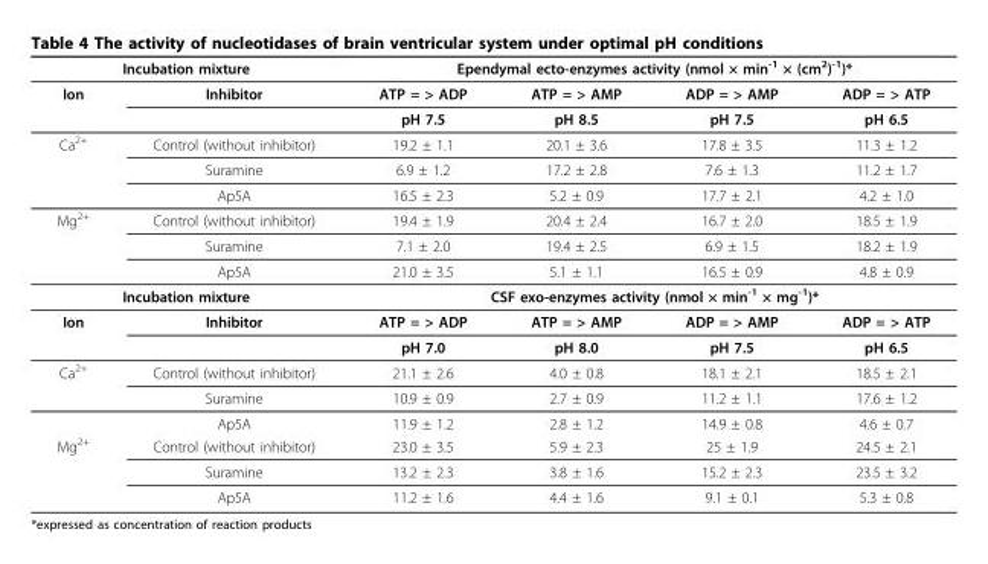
<table><thead><tr><td colspan="2">Incubation mixture</td><td colspan="4">Ependymal ecto-enzymes activity (nmol × min<sup>-1</sup> × (cm<sup>2</sup>)<sup>-1</sup>)*</td></tr><tr><td>Ion</td><td>Inhibitor</td><td>ATP = &gt; ADP</td><td>ATP = &gt; AMP</td><td>ADP = &gt; AMP</td><td>ADP = &gt; ATP</td></tr></thead><tbody><tr><td></td><td></td><td>pH 7.5</td><td>pH 8.5</td><td>pH 7.5</td><td>pH 6.5</td></tr><tr><td rowspan="3">Ca<sup>2+</sup></td><td>Control (without inhibitor)</td><td>19.2 ± 1.1</td><td>20.1 ± 3.6</td><td>17.8 ± 3.5</td><td>11.3 ± 1.2</td></tr><tr><td>Suramine</td><td>6.9 ± 1.2</td><td>17.2 ± 2.8</td><td>7.6 ± 1.3</td><td>11.2 ± 1.7</td></tr><tr><td>Ap5A</td><td>16.5 ± 2.3</td><td>5.2 ± 0.9</td><td>17.7 ± 2.1</td><td>4.2 ± 1.0</td></tr><tr><td rowspan="3">Mg<sup>2+</sup></td><td>Control (without inhibitor)</td><td>19.4 ± 1.9</td><td>20.4 ± 2.4</td><td>16.7 ± 2.0</td><td>18.5 ± 1.9</td></tr><tr><td>Suramine</td><td>7.1 ± 2.0</td><td>19.4 ± 2.5</td><td>6.9 ± 1.5</td><td>18.2 ± 1.9</td></tr><tr><td>Ap5A</td><td>21.0 ± 3.5</td><td>5.1 ± 1.1</td><td>16.5 ± 0.9</td><td>4.8 ± 0.9</td></tr><tr><td colspan="2">Incubation mixture</td><td colspan="4">CSF exo-enzymes activity (nmol × min<sup>-1</sup> × mg<sup>-1</sup>)*</td></tr><tr><td rowspan="2">Ion</td><td>Inhibitor</td><td>ATP = &gt; ADP</td><td>ATP = &gt; AMP</td><td>ADP = &gt; AMP</td><td>ADP = &gt; ATP</td></tr><tr><td></td><td>pH 7.0</td><td>pH 8.0</td><td>pH 7.5</td><td>pH 6.5</td></tr><tr><td rowspan="3">Ca<sup>2+</sup></td><td>Control (without inhibitor)</td><td>21.1 ± 2.6</td><td>4.0 ± 0.8</td><td>18.1 ± 2.1</td><td>18.5 ± 2.1</td></tr><tr><td>Suramine</td><td>10.9 ± 0.9</td><td>2.7 ± 0.9</td><td>11.2 ± 1.1</td><td>17.6 ± 1.2</td></tr><tr><td>Ap5A</td><td>11.9 ± 1.2</td><td>2.8 ± 1.2</td><td>14.9 ± 0.8</td><td>4.6 ± 0.7</td></tr><tr><td rowspan="3">Mg<sup>2+</sup></td><td>Control (without inhibitor)</td><td>23.0 ± 3.5</td><td>5.9 ± 2.3</td><td>25 ± 1.9</td><td>24.5 ± 2.1</td></tr><tr><td>Suramine</td><td>13.2 ± 2.3</td><td>3.8 ± 1.6</td><td>15.2 ± 2.3</td><td>23.5 ± 3.2</td></tr><tr><td>Ap5A</td><td>11.2 ± 1.6</td><td>4.4 ± 1.6</td><td>9.1 ± 0.1</td><td>5.3 ± 0.8</td></tr></tbody></table>